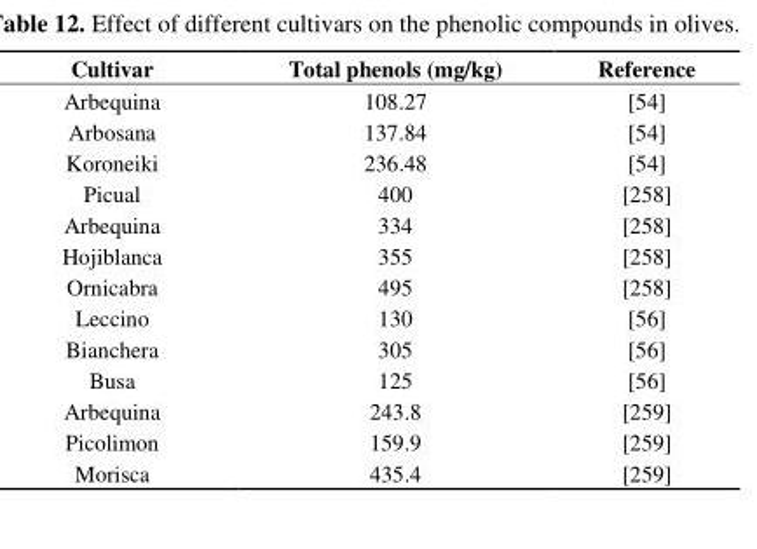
<table><thead><tr><td>Cultivar</td><td>Total phenols (mg/kg)</td><td>Reference</td></tr></thead><tbody><tr><td>Arbequina</td><td>108.27</td><td>[54]</td></tr><tr><td>Arbosana</td><td>137.84</td><td>[54]</td></tr><tr><td>Koroneiki</td><td>236.48</td><td>[54]</td></tr><tr><td>Picual</td><td>400</td><td>[258]</td></tr><tr><td>Arbequina</td><td>334</td><td>[258]</td></tr><tr><td>Hojiblanca</td><td>355</td><td>[258]</td></tr><tr><td>Ornicabra</td><td>495</td><td>[258]</td></tr><tr><td>Leccino</td><td>130</td><td>[56]</td></tr><tr><td>Bianchera</td><td>305</td><td>[56]</td></tr><tr><td>Busa</td><td>125</td><td>[56]</td></tr><tr><td>Arbequina</td><td>243.8</td><td>[259]</td></tr><tr><td>Picolimon</td><td>159.9</td><td>[259]</td></tr><tr><td>Morisca</td><td>435.4</td><td>[259]</td></tr></tbody></table>